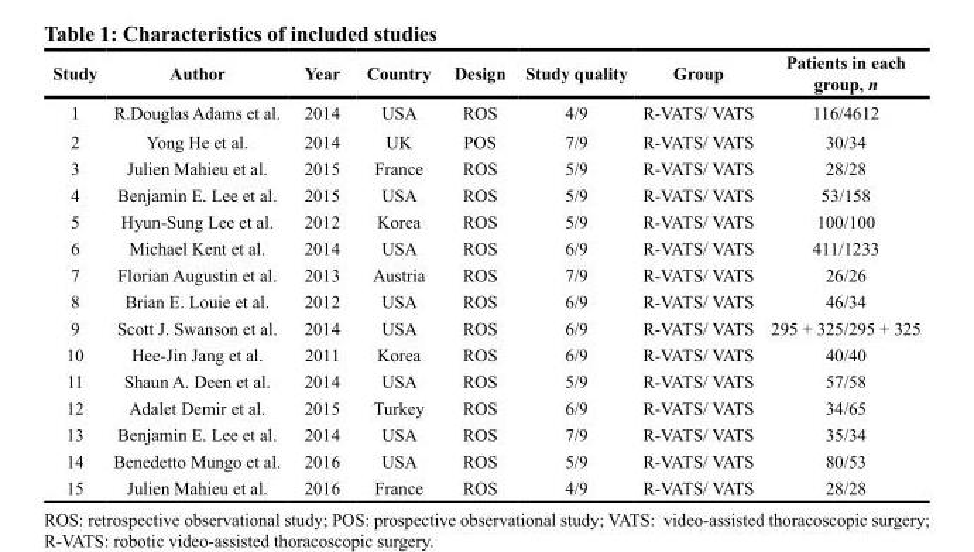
<table><thead><tr><td>Study</td><td>Author</td><td>Year</td><td>Country</td><td>Design</td><td>Study quality</td><td>Group</td><td>Patients in each group, n</td></tr></thead><tbody><tr><td>1</td><td>R.Douglas Adams et al.</td><td>2014</td><td>USA</td><td>ROS</td><td>4/9</td><td>R-VATS/ VATS</td><td>116/4612</td></tr><tr><td>2</td><td>Yong He et al.</td><td>2014</td><td>UK</td><td>POS</td><td>7/9</td><td>R-VATS/ VATS</td><td>30/34</td></tr><tr><td>3</td><td>Julien Mahieu et al.</td><td>2015</td><td>France</td><td>ROS</td><td>5/9</td><td>R-VATS/ VATS</td><td>28/28</td></tr><tr><td>4</td><td>Benjamin E. Lee et al.</td><td>2015</td><td>USA</td><td>ROS</td><td>5/9</td><td>R-VATS/ VATS</td><td>53/158</td></tr><tr><td>5</td><td>Hyun-Sung Lee et al.</td><td>2012</td><td>Korea</td><td>ROS</td><td>5/9</td><td>R-VATS/ VATS</td><td>100/100</td></tr><tr><td>6</td><td>Michael Kent et al.</td><td>2014</td><td>USA</td><td>ROS</td><td>6/9</td><td>R-VATS/ VATS</td><td>411/1233</td></tr><tr><td>7</td><td>Florian Augustin et al.</td><td>2013</td><td>Austria</td><td>ROS</td><td>7/9</td><td>R-VATS/ VATS</td><td>26/26</td></tr><tr><td>8</td><td>Brian E. Louie et al.</td><td>2012</td><td>USA</td><td>ROS</td><td>6/9</td><td>R-VATS/ VATS</td><td>46/34</td></tr><tr><td>9</td><td>Scott J. Swanson et al.</td><td>2014</td><td>USA</td><td>ROS</td><td>6/9</td><td>R-VATS/ VATS</td><td>295 + 325/295 + 325</td></tr><tr><td>10</td><td>Hee-Jin Jang et al.</td><td>2011</td><td>Korea</td><td>ROS</td><td>6/9</td><td>R-VATS/ VATS</td><td>40/40</td></tr><tr><td>11</td><td>Shaun A. Deen et al.</td><td>2014</td><td>USA</td><td>ROS</td><td>5/9</td><td>R-VATS/ VATS</td><td>57/58</td></tr><tr><td>12</td><td>Adalet Demir et al.</td><td>2015</td><td>Turkey</td><td>ROS</td><td>6/9</td><td>R-VATS/ VATS</td><td>34/65</td></tr><tr><td>13</td><td>Benjamin E. Lee et al.</td><td>2014</td><td>USA</td><td>ROS</td><td>7/9</td><td>R-VATS/ VATS</td><td>35/34</td></tr><tr><td>14</td><td>Benedetto Mungo et al.</td><td>2016</td><td>USA</td><td>ROS</td><td>5/9</td><td>R-VATS/ VATS</td><td>80/53</td></tr><tr><td>15</td><td>Julien Mahieu et al.</td><td>2016</td><td>France</td><td>ROS</td><td>4/9</td><td>R-VATS/ VATS</td><td>28/28</td></tr></tbody></table>